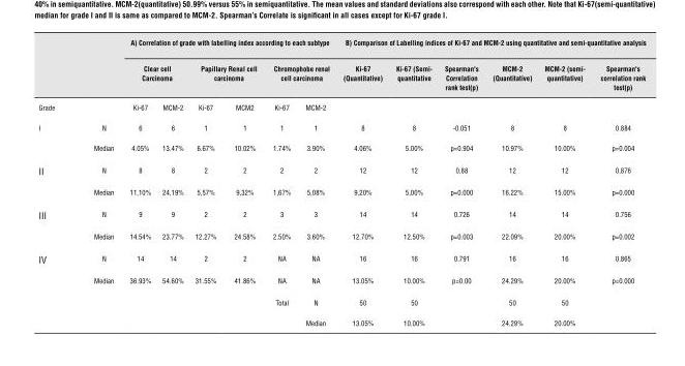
<table><thead><tr><td rowspan="3">Grade</td><td rowspan="3"></td><td colspan="6">A) correlation of grade with labelling index according to each subtype</td><td colspan="6">B) comparison of Labelling indices of Ki-67 and McM-2 using quantitative and semi-quantitative analysis</td></tr><tr><td colspan="2">clear cell carcinoma</td><td colspan="2">papillary Renal cell carcinoma</td><td colspan="2">chromophobe renal cell carcinoma</td><td rowspan="2">Ki-67 (Quantitative)</td><td rowspan="2">Ki-67 (semi- quantitative</td><td rowspan="2">spearman&#x27;s correlation rank test(p)</td><td rowspan="2">McM-2 (Quantitative)</td><td rowspan="2">McM-2 (semi- quantitative)</td><td rowspan="2">spearman&#x27;s correlation rank test(p)</td></tr><tr><td>Ki-67</td><td>MCM-2</td><td>Ki-67</td><td>MCM2</td><td>Ki-67</td><td>MCM-2</td></tr></thead><tbody><tr><td rowspan="2">I</td><td>N</td><td>6</td><td>6</td><td>1</td><td>1</td><td>1</td><td>1</td><td>8</td><td>8</td><td>-0.051</td><td>8</td><td>8</td><td>0.884</td></tr><tr><td>Median</td><td>4.05%</td><td>13.47%</td><td>6.67%</td><td>10.02%</td><td>1.74%</td><td>3.90%</td><td>4.06%</td><td>5.00%</td><td>p=0.904</td><td>10.97%</td><td>10.00%</td><td>p=0.004</td></tr><tr><td rowspan="2">II</td><td>N</td><td>8</td><td>8</td><td>2</td><td>2</td><td>2</td><td>2</td><td>12</td><td>12</td><td>0,88</td><td>12</td><td>12</td><td>0,876</td></tr><tr><td>Median</td><td>11,10%</td><td>24,19%</td><td>5,57%</td><td>9,32%</td><td>1,67%</td><td>5,08%</td><td>9,20%</td><td>5,00%</td><td>p=0.000</td><td>16.22%</td><td>15.00%</td><td>p=0.000</td></tr><tr><td rowspan="2">III</td><td>N</td><td>9</td><td>9</td><td>2</td><td>2</td><td>3</td><td>3</td><td>14</td><td>14</td><td>0.726</td><td>14</td><td>14</td><td>0.756</td></tr><tr><td>Median</td><td>14.54%</td><td>23.77%</td><td>12.27%</td><td>24.58%</td><td>2.50%</td><td>3.60%</td><td>12.70%</td><td>12.50%</td><td>p=0.003</td><td>22.09%</td><td>20.00%</td><td>p=0.002</td></tr><tr><td rowspan="4">IV</td><td>N</td><td>14</td><td>14</td><td>2</td><td>2</td><td>NA</td><td>NA</td><td>16</td><td>16</td><td>0.791</td><td>16</td><td>16</td><td>0.865</td></tr><tr><td>Median</td><td>36.93%</td><td>54.60%</td><td>31.55%</td><td>41.86%</td><td>NA</td><td>NA</td><td>13.05%</td><td>10.00%</td><td>p=0.00</td><td>24.29%</td><td>20.00%</td><td>p=0.000</td></tr><tr><td></td><td></td><td></td><td></td><td></td><td>Total</td><td>N</td><td>50</td><td>50</td><td></td><td>50</td><td>50</td><td></td></tr><tr><td></td><td></td><td></td><td></td><td></td><td></td><td>Median</td><td>13.05%</td><td>10.00%</td><td></td><td>24.29%</td><td>20.00%</td><td></td></tr></tbody></table>